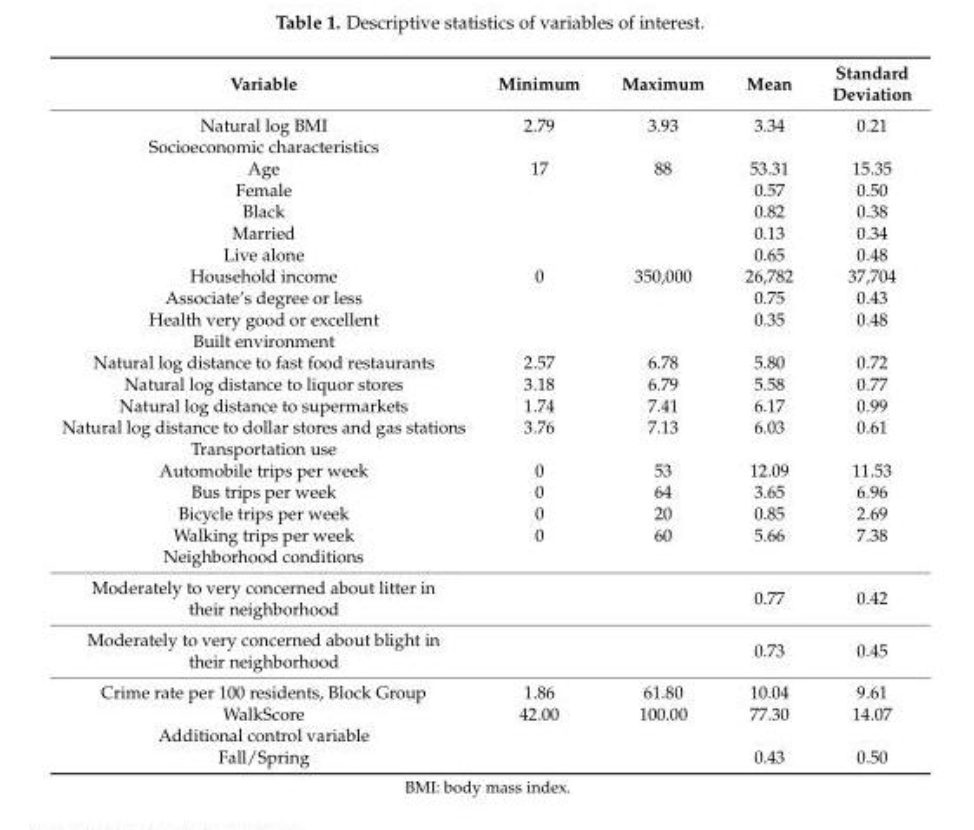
<table><thead><tr><td>Variable</td><td>Minimum</td><td>Maximum</td><td>Mean</td><td>Standard Deviation</td></tr></thead><tbody><tr><td>Natural log BMI</td><td>2.79</td><td>3.93</td><td>3.34</td><td>0.21</td></tr><tr><td colspan="5">Socioeconomic characteristics</td></tr><tr><td>Age</td><td>17</td><td>88</td><td>53.31</td><td>15.35</td></tr><tr><td>Female</td><td></td><td></td><td>0.57</td><td>0.50</td></tr><tr><td>Black</td><td></td><td></td><td>0.82</td><td>0.38</td></tr><tr><td>Married</td><td></td><td></td><td>0.13</td><td>0.34</td></tr><tr><td>Live alone</td><td></td><td></td><td>0.65</td><td>0.48</td></tr><tr><td>Household income</td><td>0</td><td>350,000</td><td>26,782</td><td>37,704</td></tr><tr><td>Associate’s degree or less</td><td></td><td></td><td>0.75</td><td>0.43</td></tr><tr><td>Health very good or excellent</td><td></td><td></td><td>0.35</td><td>0.48</td></tr><tr><td colspan="5">Built environment</td></tr><tr><td>Natural log distance to fast food restaurants</td><td>2.57</td><td>6.78</td><td>5.80</td><td>0.72</td></tr><tr><td>Natural log distance to liquor stores</td><td>3.18</td><td>6.79</td><td>5.58</td><td>0.77</td></tr><tr><td>Natural log distance to supermarkets</td><td>1.74</td><td>7.41</td><td>6.17</td><td>0.99</td></tr><tr><td>Natural log distance to dollar stores and gas stations</td><td>3.76</td><td>7.13</td><td>6.03</td><td>0.61</td></tr><tr><td colspan="5">Transportation use</td></tr><tr><td>Automobile trips per week</td><td>0</td><td>53</td><td>12.09</td><td>11.53</td></tr><tr><td>Bus trips per week</td><td>0</td><td>64</td><td>3.65</td><td>6.96</td></tr><tr><td>Bicycle trips per week</td><td>0</td><td>20</td><td>0.85</td><td>2.69</td></tr><tr><td>Walking trips per week</td><td>0</td><td>60</td><td>5.66</td><td>7.38</td></tr><tr><td colspan="5">Neighborhood conditions</td></tr><tr><td>Moderately to very concerned about litter in their neighborhood</td><td></td><td></td><td>0.77</td><td>0.42</td></tr><tr><td>Moderately to very concerned about blight in their neighborhood</td><td></td><td></td><td>0.73</td><td>0.45</td></tr><tr><td>Crime rate per 100 residents, Block Group</td><td>1.86</td><td>61.80</td><td>10.04</td><td>9.61</td></tr><tr><td>WalkScore</td><td>42.00</td><td>100.00</td><td>77.30</td><td>14.07</td></tr><tr><td colspan="5">Additional control variable</td></tr><tr><td>Fall/Spring</td><td></td><td></td><td>0.43</td><td>0.50</td></tr></tbody></table>